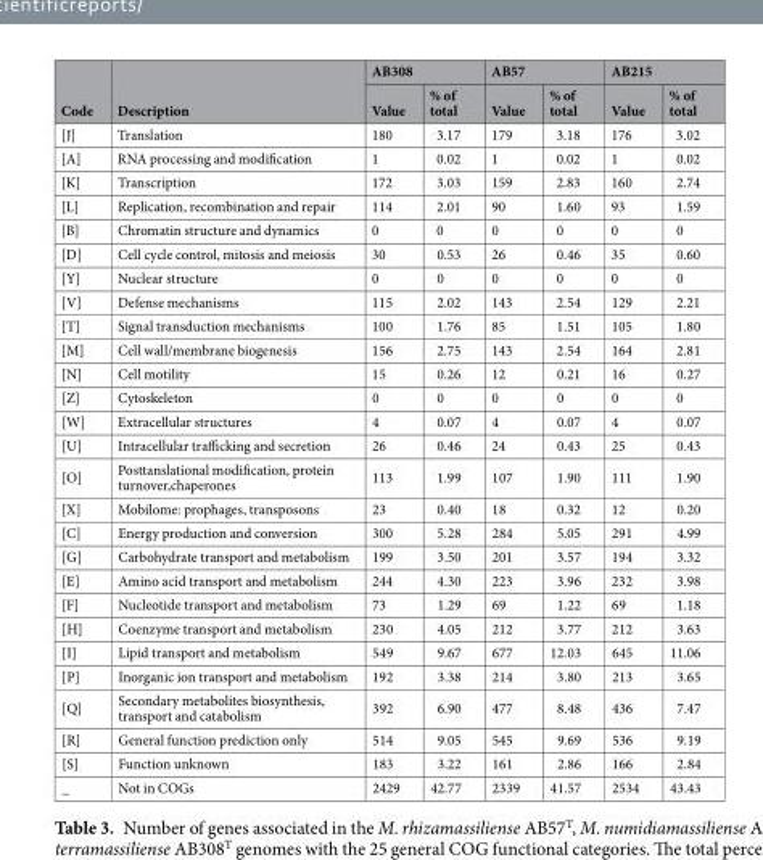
<table><thead><tr><td rowspan="2">Code</td><td rowspan="2">Description</td><td colspan="2">AB308</td><td colspan="2">AB57</td><td colspan="2">AB215</td></tr><tr><td>Value</td><td>% of total</td><td>Value</td><td>% of total</td><td>Value</td><td>% of total</td></tr></thead><tbody><tr><td>[J]</td><td>Translation</td><td>180</td><td>3.17</td><td>179</td><td>3.18</td><td>176</td><td>3.02</td></tr><tr><td>[A]</td><td>RNA processing and modification</td><td>1</td><td>0.02</td><td>1</td><td>0.02</td><td>1</td><td>0.02</td></tr><tr><td>[K]</td><td>Transcription</td><td>172</td><td>3.03</td><td>159</td><td>2.83</td><td>160</td><td>2.74</td></tr><tr><td>[L]</td><td>Replication, recombination and repair</td><td>114</td><td>2.01</td><td>90</td><td>1.60</td><td>93</td><td>1.59</td></tr><tr><td>[B]</td><td>Chromatin structure and dynamics</td><td>0</td><td>0</td><td>0</td><td>0</td><td>0</td><td>0</td></tr><tr><td>[D]</td><td>Cell cycle control, mitosis and meiosis</td><td>30</td><td>0.53</td><td>26</td><td>0.46</td><td>35</td><td>0.60</td></tr><tr><td>[Y]</td><td>Nuclear structure</td><td>0</td><td>0</td><td>0</td><td>0</td><td>0</td><td>0</td></tr><tr><td>[V]</td><td>Defense mechanisms</td><td>115</td><td>2.02</td><td>143</td><td>2.54</td><td>129</td><td>2.21</td></tr><tr><td>[T]</td><td>Signal transduction mechanisms</td><td>100</td><td>1.76</td><td>85</td><td>1.51</td><td>105</td><td>1.80</td></tr><tr><td>[M]</td><td>Cell wall/membrane biogenesis</td><td>156</td><td>2.75</td><td>143</td><td>2.54</td><td>164</td><td>2.81</td></tr><tr><td>[N]</td><td>Cell motility</td><td>15</td><td>0.26</td><td>12</td><td>0.21</td><td>16</td><td>0.27</td></tr><tr><td>[Z]</td><td>Cytoskeleton</td><td>0</td><td>0</td><td>0</td><td>0</td><td>0</td><td>0</td></tr><tr><td>[W]</td><td>Extracellular structures</td><td>4</td><td>0.07</td><td>4</td><td>0.07</td><td>4</td><td>0.07</td></tr><tr><td>[U]</td><td>Intracellular trafficking and secretion</td><td>26</td><td>0.46</td><td>24</td><td>0.43</td><td>25</td><td>0.43</td></tr><tr><td>[O]</td><td>Posttanslational modification, protein turnover,chaperones</td><td>113</td><td>1.99</td><td>107</td><td>1.90</td><td>111</td><td>1.90</td></tr><tr><td>[X]</td><td>Mobilome: prophages, transposons</td><td>23</td><td>0.40</td><td>18</td><td>0.32</td><td>12</td><td>0.20</td></tr><tr><td>[C]</td><td>Energy production and conversion</td><td>300</td><td>5.28</td><td>284</td><td>5.05</td><td>291</td><td>4.99</td></tr><tr><td>[G]</td><td>Carbohydrate transport and metabolism</td><td>199</td><td>3.50</td><td>201</td><td>3.57</td><td>194</td><td>3.32</td></tr><tr><td>[E]</td><td>Amino acid transport and metabolism</td><td>244</td><td>4.30</td><td>223</td><td>3.96</td><td>232</td><td>3.98</td></tr><tr><td>[F]</td><td>Nucleotide transport and metabolism</td><td>73</td><td>1.29</td><td>69</td><td>1.22</td><td>69</td><td>1.18</td></tr><tr><td>[H]</td><td>Coenzyme transport and metabolism</td><td>230</td><td>4.05</td><td>212</td><td>3.77</td><td>212</td><td>3.63</td></tr><tr><td>[I]</td><td>Lipid transport and metabolism</td><td>549</td><td>9.67</td><td>677</td><td>12.03</td><td>645</td><td>11.06</td></tr><tr><td>[P]</td><td>Inorganic ion transport and metabolism</td><td>192</td><td>3.38</td><td>214</td><td>3.80</td><td>213</td><td>3.65</td></tr><tr><td>[Q]</td><td>Secondary metabolites biosynthesis, transport and catabolism</td><td>392</td><td>6.90</td><td>477</td><td>8.48</td><td>436</td><td>7.47</td></tr><tr><td>[R]</td><td>General function prediction only</td><td>514</td><td>9.05</td><td>545</td><td>9.69</td><td>536</td><td>9.19</td></tr><tr><td>[S]</td><td>Function unknown</td><td>183</td><td>3.22</td><td>161</td><td>2.86</td><td>166</td><td>2.84</td></tr><tr><td>_</td><td>Not in COGs</td><td>2429</td><td>42.77</td><td>2339</td><td>41.57</td><td>2534</td><td>43.43</td></tr></tbody></table>